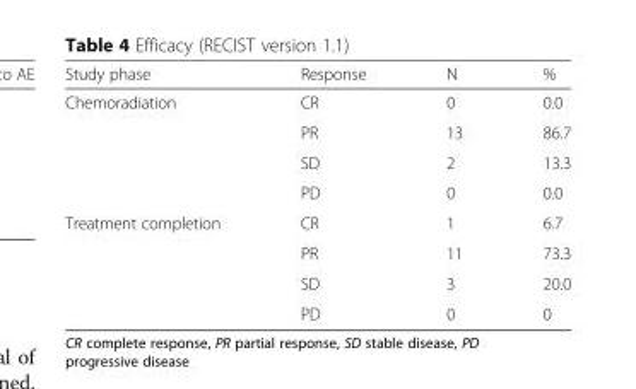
<table><thead><tr><td>Study phase</td><td>Response</td><td>N</td><td>%</td></tr></thead><tbody><tr><td rowspan="4">Chemoradiation</td><td>CR</td><td>0</td><td>0.0</td></tr><tr><td>PR</td><td>13</td><td>86.7</td></tr><tr><td>SD</td><td>2</td><td>13.3</td></tr><tr><td>PD</td><td>0</td><td>0.0</td></tr><tr><td rowspan="4">Treatment completion</td><td>CR</td><td>1</td><td>6.7</td></tr><tr><td>PR</td><td>11</td><td>73.3</td></tr><tr><td>SD</td><td>3</td><td>20.0</td></tr><tr><td>PD</td><td>0</td><td>0</td></tr></tbody></table>